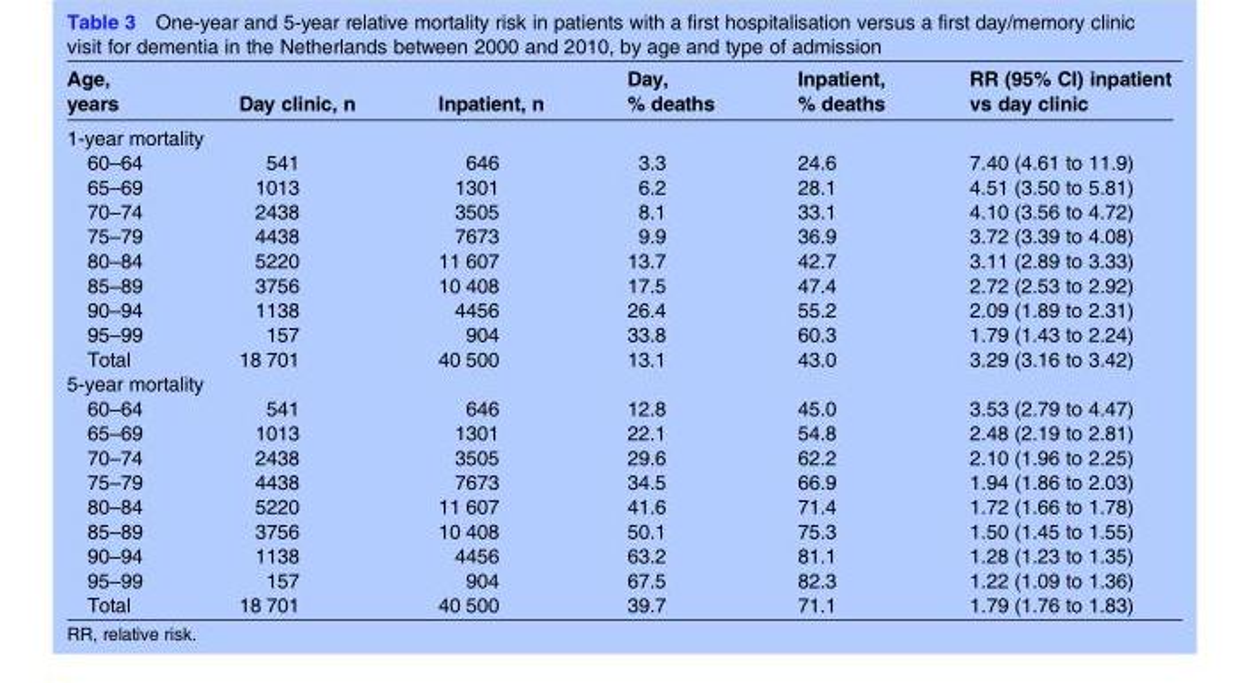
<table><thead><tr><td>Age, years</td><td>Day clinic, n</td><td>Inpatient, n</td><td>Day, % deaths</td><td>Inpatient, % deaths</td><td>RR (95% CI) inpatient vs day clinic</td></tr></thead><tbody><tr><td colspan="6">1-year mortality</td></tr><tr><td>60–64</td><td>541</td><td>646</td><td>3.3</td><td>24.6</td><td>7.40 (4.61 to 11.9)</td></tr><tr><td>65–69</td><td>1013</td><td>1301</td><td>6.2</td><td>28.1</td><td>4.51 (3.50 to 5.81)</td></tr><tr><td>70–74</td><td>2438</td><td>3505</td><td>8.1</td><td>33.1</td><td>4.10 (3.56 to 4.72)</td></tr><tr><td>75–79</td><td>4438</td><td>7673</td><td>9.9</td><td>36.9</td><td>3.72 (3.39 to 4.08)</td></tr><tr><td>80–84</td><td>5220</td><td>11 607</td><td>13.7</td><td>42.7</td><td>3.11 (2.89 to 3.33)</td></tr><tr><td>85–89</td><td>3756</td><td>10 408</td><td>17.5</td><td>47.4</td><td>2.72 (2.53 to 2.92)</td></tr><tr><td>90–94</td><td>1138</td><td>4456</td><td>26.4</td><td>55.2</td><td>2.09 (1.89 to 2.31)</td></tr><tr><td>95–99</td><td>157</td><td>904</td><td>33.8</td><td>60.3</td><td>1.79 (1.43 to 2.24)</td></tr><tr><td>Total</td><td>18 701</td><td>40 500</td><td>13.1</td><td>43.0</td><td>3.29 (3.16 to 3.42)</td></tr><tr><td colspan="6">5-year mortality</td></tr><tr><td>60–64</td><td>541</td><td>646</td><td>12.8</td><td>45.0</td><td>3.53 (2.79 to 4.47)</td></tr><tr><td>65–69</td><td>1013</td><td>1301</td><td>22.1</td><td>54.8</td><td>2.48 (2.19 to 2.81)</td></tr><tr><td>70–74</td><td>2438</td><td>3505</td><td>29.6</td><td>62.2</td><td>2.10 (1.96 to 2.25)</td></tr><tr><td>75–79</td><td>4438</td><td>7673</td><td>34.5</td><td>66.9</td><td>1.94 (1.86 to 2.03)</td></tr><tr><td>80–84</td><td>5220</td><td>11 607</td><td>41.6</td><td>71.4</td><td>1.72 (1.66 to 1.78)</td></tr><tr><td>85–89</td><td>3756</td><td>10 408</td><td>50.1</td><td>75.3</td><td>1.50 (1.45 to 1.55)</td></tr><tr><td>90–94</td><td>1138</td><td>4456</td><td>63.2</td><td>81.1</td><td>1.28 (1.23 to 1.35)</td></tr><tr><td>95–99</td><td>157</td><td>904</td><td>67.5</td><td>82.3</td><td>1.22 (1.09 to 1.36)</td></tr><tr><td>Total</td><td>18 701</td><td>40 500</td><td>39.7</td><td>71.1</td><td>1.79 (1.76 to 1.83)</td></tr></tbody></table>